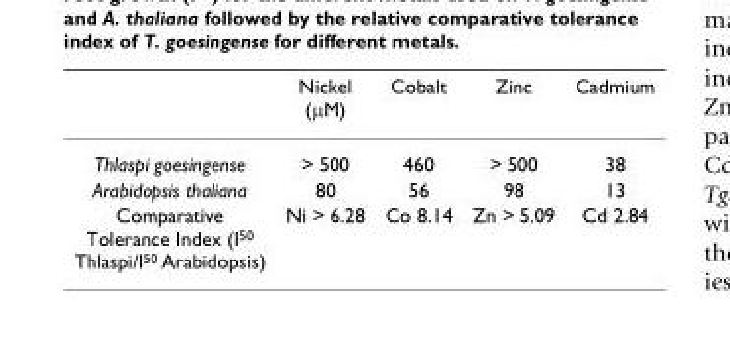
<table><thead><tr><td></td><td>Nickel (μM)</td><td>Cobalt</td><td>Zinc</td><td>Cadmium</td></tr></thead><tbody><tr><td>Thlaspi goesingense</td><td>&gt; 500</td><td>460</td><td>&gt; 500</td><td>38</td></tr><tr><td>Arabidopsis thaliana</td><td>80</td><td>56</td><td>98</td><td>13</td></tr><tr><td>Comparative Tolerance Index (I<sup>50</sup> Thlaspi/I<sup>50</sup> Arabidopsis)</td><td>Ni &gt; 6.28</td><td>Co 8.14</td><td>Zn &gt; 5.09</td><td>Cd 2.84</td></tr></tbody></table>